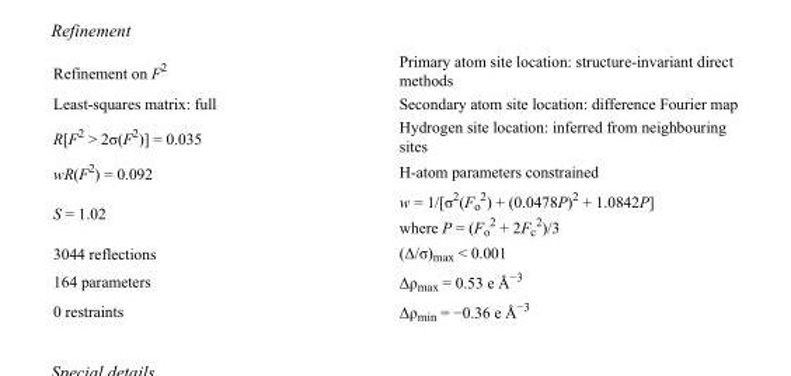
<table><tbody><tr><td>Refinement on F<sup>2</sup></td><td>Primary atom site location: structure-invariant direct methods</td></tr><tr><td>Least-squares matrix: full</td><td>Secondary atom site location: difference Fourier map</td></tr><tr><td>R[F<sup>2</sup> &gt; 2σ(F<sup>2</sup>)] = 0.035</td><td>Hydrogen site location: inferred from neighbouring sites</td></tr><tr><td>wR(F<sup>2</sup>) = 0.092</td><td>H-atom parameters constrained</td></tr><tr><td>S = 1.02</td><td>w = 1/[σ<sup>2</sup>(F<sub>o</sub> <sup>2</sup>) + (0.0478P)<sup>2</sup> + 1.0842P] where P = (F<sub>o</sub> <sup>2</sup> + 2F<sub>c</sub> <sup>2</sup>)/3</td></tr><tr><td>3044 reflections</td><td>(Δ/σ)<sub>max</sub> &lt; 0.001</td></tr><tr><td>164 parameters</td><td>Δρ<sub>max</sub> = 0.53 e Å<sup>−3</sup></td></tr><tr><td>0 restraints</td><td>Δρ<sub>min</sub> = −0.36 e Å<sup>−3</sup></td></tr></tbody></table>